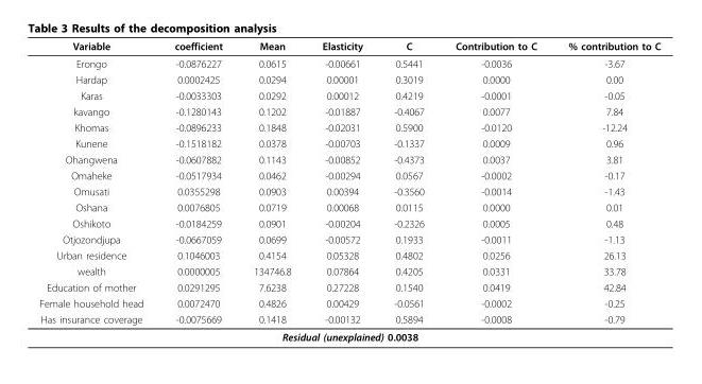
<table><thead><tr><td>Variable</td><td>coefficient</td><td>Mean</td><td>Elasticity</td><td>C</td><td>Contribution to C</td><td>% contribution to C</td></tr></thead><tbody><tr><td>Erongo</td><td>-0.0876227</td><td>0.0615</td><td>-0.00661</td><td>0.5441</td><td>-0.0036</td><td>-3.67</td></tr><tr><td>Hardap</td><td>0.0002425</td><td>0.0294</td><td>0.00001</td><td>0.3019</td><td>0.0000</td><td>0.00</td></tr><tr><td>Karas</td><td>-0.0033303</td><td>0.0292</td><td>0.00012</td><td>0.4219</td><td>-0.0001</td><td>-0.05</td></tr><tr><td>kavango</td><td>-0.1280143</td><td>0.1202</td><td>-0.01887</td><td>-0.4067</td><td>0.0077</td><td>7.84</td></tr><tr><td>Khomas</td><td>-0.0896233</td><td>0.1848</td><td>-0.02031</td><td>0.5900</td><td>-0.0120</td><td>-12.24</td></tr><tr><td>Kunene</td><td>-0.1518182</td><td>0.0378</td><td>-0.00703</td><td>-0.1337</td><td>0.0009</td><td>0.96</td></tr><tr><td>Ohangwena</td><td>-0.0607882</td><td>0.1143</td><td>-0.00852</td><td>-0.4373</td><td>0.0037</td><td>3.81</td></tr><tr><td>Omaheke</td><td>-0.0517934</td><td>0.0462</td><td>-0.00294</td><td>0.0567</td><td>-0.0002</td><td>-0.17</td></tr><tr><td>Omusati</td><td>0.0355298</td><td>0.0903</td><td>0.00394</td><td>-0.3560</td><td>-0.0014</td><td>-1.43</td></tr><tr><td>Oshana</td><td>0.0076805</td><td>0.0719</td><td>0.00068</td><td>0.0115</td><td>0.0000</td><td>0.01</td></tr><tr><td>Oshikoto</td><td>-0.0184259</td><td>0.0901</td><td>-0.00204</td><td>-0.2326</td><td>0.0005</td><td>0.48</td></tr><tr><td>Otjozondjupa</td><td>-0.0667059</td><td>0.0699</td><td>-0.00572</td><td>0.1933</td><td>-0.0011</td><td>-1.13</td></tr><tr><td>Urban residence</td><td>0.1046003</td><td>0.4154</td><td>0.05328</td><td>0.4802</td><td>0.0256</td><td>26.13</td></tr><tr><td>wealth</td><td>0.0000005</td><td>134746.8</td><td>0.07864</td><td>0.4205</td><td>0.0331</td><td>33.78</td></tr><tr><td>Education of mother</td><td>0.0291295</td><td>7.6238</td><td>0.27228</td><td>0.1540</td><td>0.0419</td><td>42.84</td></tr><tr><td>Female household head</td><td>0.0072470</td><td>0.4826</td><td>0.00429</td><td>-0.0561</td><td>-0.0002</td><td>-0.25</td></tr><tr><td>Has insurance coverage</td><td>-0.0075669</td><td>0.1418</td><td>-0.00132</td><td>0.5894</td><td>-0.0008</td><td>-0.79</td></tr><tr><td colspan="7">Residual (unexplained) 0.0038</td></tr></tbody></table>